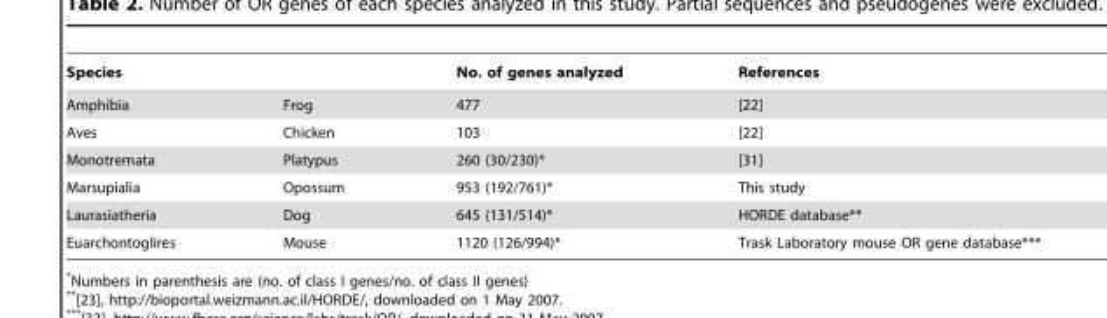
<table><thead><tr><td colspan="2">Species</td><td rowspan="2">No. of genes analyzed 477</td><td rowspan="2">References [22]</td></tr><tr><td>Amphibia</td><td>Frog</td></tr></thead><tbody><tr><td>Aves</td><td>Chicken</td><td>103</td><td>[22]</td></tr><tr><td>Monotremata</td><td>Platypus</td><td>260 (30/230)*</td><td>[31]</td></tr><tr><td>Marsupialia</td><td>Opossum</td><td>953 (192/761)*</td><td>This study</td></tr><tr><td>Laurasiatheria</td><td>Dog</td><td>645 (131/514)*</td><td>HORDE database**</td></tr><tr><td>Euarchontoglires</td><td>Mouse</td><td>1120 (126/994)*</td><td>Trask Laboratory mouse OR gene database***</td></tr></tbody></table>